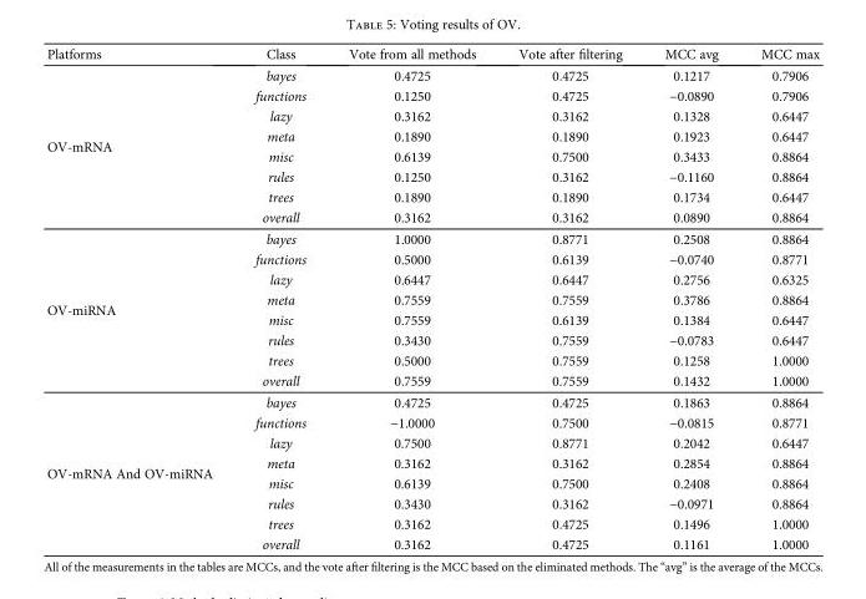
<table><thead><tr><td>Platforms</td><td>Class</td><td>Vote from all methods</td><td>Vote after filtering</td><td>MCC avg</td><td>MCC max</td></tr></thead><tbody><tr><td rowspan="8">OV-mRNA</td><td>bayes</td><td>0.4725</td><td>0.4725</td><td>0.1217</td><td>0.7906</td></tr><tr><td>functions</td><td>0.1250</td><td>0.4725</td><td>−0.0890</td><td>0.7906</td></tr><tr><td>lazy</td><td>0.3162</td><td>0.3162</td><td>0.1328</td><td>0.6447</td></tr><tr><td>meta</td><td>0.1890</td><td>0.1890</td><td>0.1923</td><td>0.6447</td></tr><tr><td>misc</td><td>0.6139</td><td>0.7500</td><td>0.3433</td><td>0.8864</td></tr><tr><td>rules</td><td>0.1250</td><td>0.3162</td><td>−0.1160</td><td>0.8864</td></tr><tr><td>trees</td><td>0.1890</td><td>0.1890</td><td>0.1734</td><td>0.6447</td></tr><tr><td>overall</td><td>0.3162</td><td>0.3162</td><td>0.0890</td><td>0.8864</td></tr><tr><td rowspan="8">OV-miRNA</td><td>bayes</td><td>1.0000</td><td>0.8771</td><td>0.2508</td><td>0.8864</td></tr><tr><td>functions</td><td>0.5000</td><td>0.6139</td><td>−0.0740</td><td>0.8771</td></tr><tr><td>lazy</td><td>0.6447</td><td>0.6447</td><td>0.2756</td><td>0.6325</td></tr><tr><td>meta</td><td>0.7559</td><td>0.7559</td><td>0.3786</td><td>0.8864</td></tr><tr><td>misc</td><td>0.7559</td><td>0.6139</td><td>0.1384</td><td>0.6447</td></tr><tr><td>rules</td><td>0.3430</td><td>0.7559</td><td>−0.0783</td><td>0.6447</td></tr><tr><td>trees</td><td>0.5000</td><td>0.7559</td><td>0.1258</td><td>1.0000</td></tr><tr><td>overall</td><td>0.7559</td><td>0.7559</td><td>0.1432</td><td>1.0000</td></tr><tr><td rowspan="8">OV-mRNA And OV-miRNA</td><td>bayes</td><td>0.4725</td><td>0.4725</td><td>0.1863</td><td>0.8864</td></tr><tr><td>functions</td><td>−1.0000</td><td>0.7500</td><td>−0.0815</td><td>0.8771</td></tr><tr><td>lazy</td><td>0.7500</td><td>0.8771</td><td>0.2042</td><td>0.6447</td></tr><tr><td>meta</td><td>0.3162</td><td>0.3162</td><td>0.2854</td><td>0.8864</td></tr><tr><td>misc</td><td>0.6139</td><td>0.7500</td><td>0.2408</td><td>0.8864</td></tr><tr><td>rules</td><td>0.3430</td><td>0.3162</td><td>−0.0971</td><td>0.8864</td></tr><tr><td>trees</td><td>0.3162</td><td>0.4725</td><td>0.1496</td><td>1.0000</td></tr><tr><td>overall</td><td>0.3162</td><td>0.4725</td><td>0.1161</td><td>1.0000</td></tr></tbody></table>